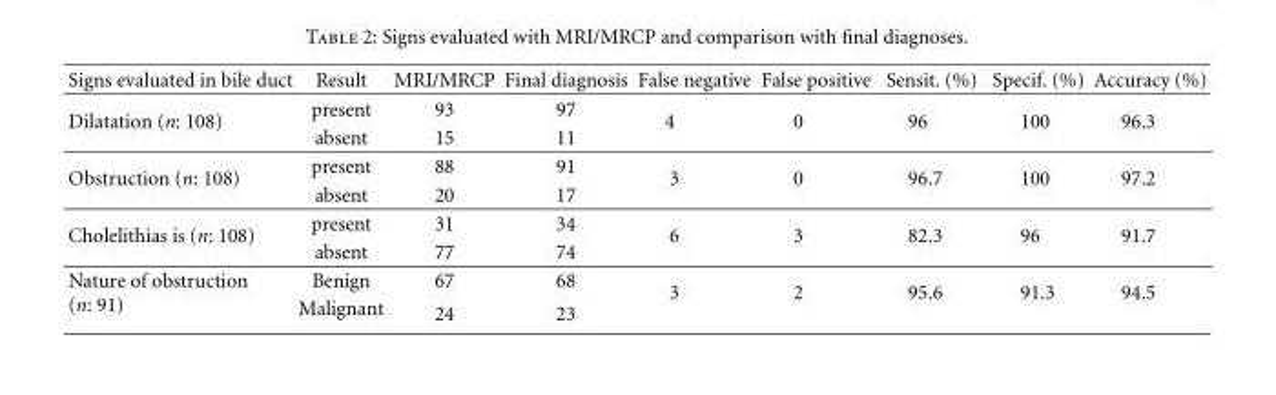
<table><thead><tr><td>Signs evaluated in bile duct</td><td>Result</td><td>MRI/MRCP</td><td>Final diagnosis</td><td>False negative</td><td>False positive</td><td>Sensit. (%)</td><td>Specif. (%)</td><td>Accuracy (%)</td></tr></thead><tbody><tr><td rowspan="2">Dilatation (n: 108)</td><td>present</td><td>93</td><td>97</td><td rowspan="2">4</td><td rowspan="2">0</td><td rowspan="2">96</td><td rowspan="2">100</td><td rowspan="2">96.3</td></tr><tr><td>absent</td><td>15</td><td>11</td></tr><tr><td rowspan="2">Obstruction (n: 108)</td><td>present</td><td>88</td><td>91</td><td rowspan="2">3</td><td rowspan="2">0</td><td rowspan="2">96.7</td><td rowspan="2">100</td><td rowspan="2">97.2</td></tr><tr><td>absent</td><td>20</td><td>17</td></tr><tr><td rowspan="2">Cholelithias is (n: 108)</td><td>present</td><td>31</td><td>34</td><td rowspan="2">6</td><td rowspan="2">3</td><td rowspan="2">82.3</td><td rowspan="2">96</td><td rowspan="2">91.7</td></tr><tr><td>absent</td><td>77</td><td>74</td></tr><tr><td rowspan="2">Nature of obstruction (n: 91)</td><td>Benign</td><td>67</td><td>68</td><td rowspan="2">3</td><td rowspan="2">2</td><td rowspan="2">95.6</td><td rowspan="2">91.3</td><td rowspan="2">94.5</td></tr><tr><td>Malignant</td><td>24</td><td>23</td></tr></tbody></table>